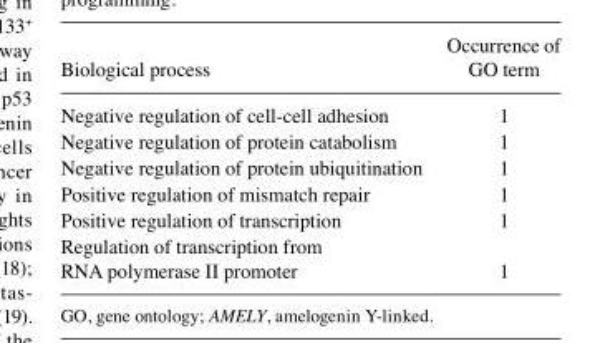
<table><thead><tr><td>Biological process</td><td>GO term</td></tr></thead><tbody><tr><td>Negative regulation of cell-cell adhesion</td><td>1</td></tr><tr><td>Negative regulation of protein catabolism</td><td>1</td></tr><tr><td>Negative regulation of protein ubiquitination</td><td>1</td></tr><tr><td>Positive regulation of mismatch repair</td><td>1</td></tr><tr><td>Positive regulation of transcription</td><td>1</td></tr><tr><td>Regulation of transcription from RNA polymerase II promoter</td><td>1</td></tr></tbody></table>